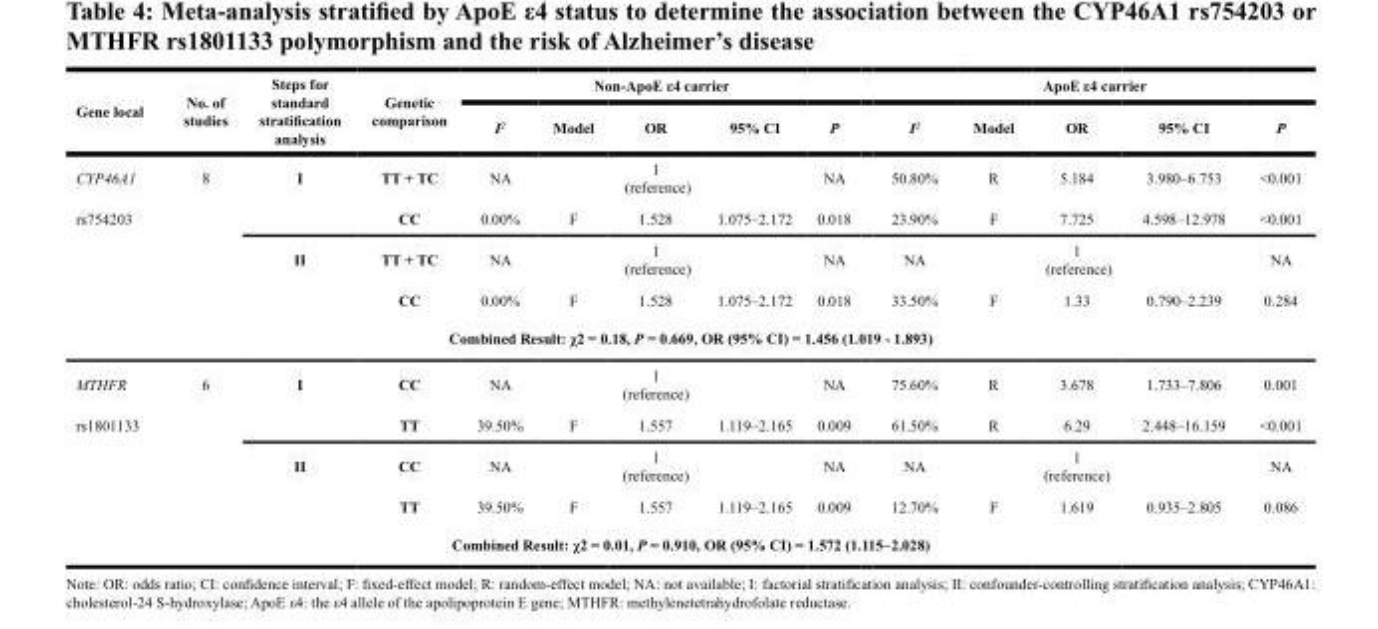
<table><thead><tr><td rowspan="2">Gene local</td><td rowspan="2">No. of studies</td><td rowspan="2">Steps for standard stratification analysis</td><td rowspan="2">Genetic comparison</td><td colspan="5">Non-ApoE ε4 carrier</td><td colspan="5">ApoE ε4 carrier</td></tr><tr><td>I<sup>2</sup></td><td>Model</td><td>OR</td><td>95% CI</td><td>P</td><td>I<sup>2</sup></td><td>Model</td><td>OR</td><td>95% CI</td><td>P</td></tr></thead><tbody><tr><td>CYP46A1</td><td>8</td><td>I</td><td>TT + TC</td><td>NA</td><td></td><td>1 (reference)</td><td></td><td>NA</td><td>50.80%</td><td>R</td><td>5.184</td><td>3.980–6.753</td><td>&lt;0.001</td></tr><tr><td rowspan="3">rs754203</td><td></td><td></td><td>CC</td><td>0.00%</td><td>F</td><td>1.528</td><td>1.075–2.172</td><td>0.018</td><td>23.90%</td><td>F</td><td>7.725</td><td>4.598–12.978</td><td>&lt;0.001</td></tr><tr><td></td><td>II</td><td>TT + TC</td><td>NA</td><td></td><td>1 (reference)</td><td></td><td>NA</td><td>NA</td><td></td><td>1 (reference)</td><td></td><td>NA</td></tr><tr><td></td><td></td><td>CC</td><td>0.00%</td><td>F</td><td>1.528</td><td>1.075–2.172</td><td>0.018</td><td>33.50%</td><td>F</td><td>1.33</td><td>0.790–2.239</td><td>0.284</td></tr><tr><td colspan="14">Combined Result: χ2 = 0.18, P = 0.669, OR (95% CI) = 1.456 (1.019 - 1.893)</td></tr><tr><td>MTHFR</td><td>6</td><td>I</td><td>CC</td><td>NA</td><td></td><td>1 (reference)</td><td></td><td>NA</td><td>75.60%</td><td>R</td><td>3.678</td><td>1.733–7.806</td><td>0.001</td></tr><tr><td rowspan="3">rs1801133</td><td></td><td></td><td>TT</td><td>39.50%</td><td>F</td><td>1.557</td><td>1.119–2.165</td><td>0.009</td><td>61.50%</td><td>R</td><td>6.29</td><td>2.448–16.159</td><td>&lt;0.001</td></tr><tr><td></td><td>II</td><td>CC</td><td>NA</td><td></td><td>1 (reference)</td><td></td><td>NA</td><td>NA</td><td></td><td>1 (reference)</td><td></td><td>NA</td></tr><tr><td></td><td></td><td>TT</td><td>39.50%</td><td>F</td><td>1.557</td><td>1.119–2.165</td><td>0.009</td><td>12.70%</td><td>F</td><td>1.619</td><td>0.935–2.805</td><td>0.086</td></tr><tr><td colspan="14">Combined Result: χ2 = 0.01, P = 0.910, OR (95% CI) = 1.572 (1.115–2.028)</td></tr></tbody></table>